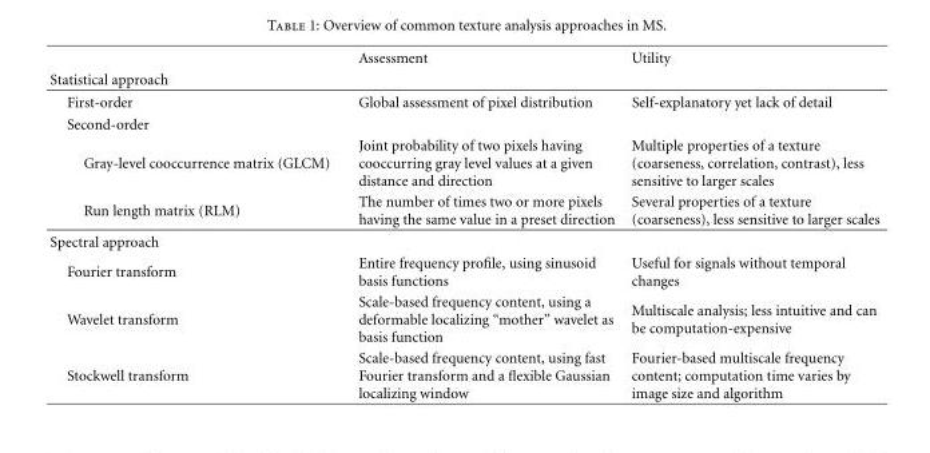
<table><thead><tr><td></td><td>Assessment</td><td>Utility</td></tr></thead><tbody><tr><td colspan="3">Statistical approach</td></tr><tr><td>First-order</td><td>Global assessment of pixel distribution</td><td>Self-explanatory yet lack of detail</td></tr><tr><td colspan="3">Second-order</td></tr><tr><td>Gray-level cooccurrence matrix (GLCM)</td><td>Joint probability of two pixels having cooccurring gray level values at a given distance and direction</td><td>Multiple properties of a texture (coarseness, correlation, contrast), less sensitive to larger scales</td></tr><tr><td>Run length matrix (RLM)</td><td>The number of times two or more pixels having the same value in a preset direction</td><td>Several properties of a texture (coarseness), less sensitive to larger scales</td></tr><tr><td colspan="3">Spectral approach</td></tr><tr><td>Fourier transform</td><td>Entire frequency profile, using sinusoid basis functions</td><td>Useful for signals without temporal changes</td></tr><tr><td>Wavelet transform</td><td>Scale-based frequency content, using a deformable localizing “mother” wavelet as basis function</td><td>Multiscale analysis; less intuitive and can be computation-expensive</td></tr><tr><td>Stockwell transform</td><td>Scale-based frequency content, using fast Fourier transform and a flexible Gaussian localizing window</td><td>Fourier-based multiscale frequency content; computation time varies by image size and algorithm</td></tr></tbody></table>